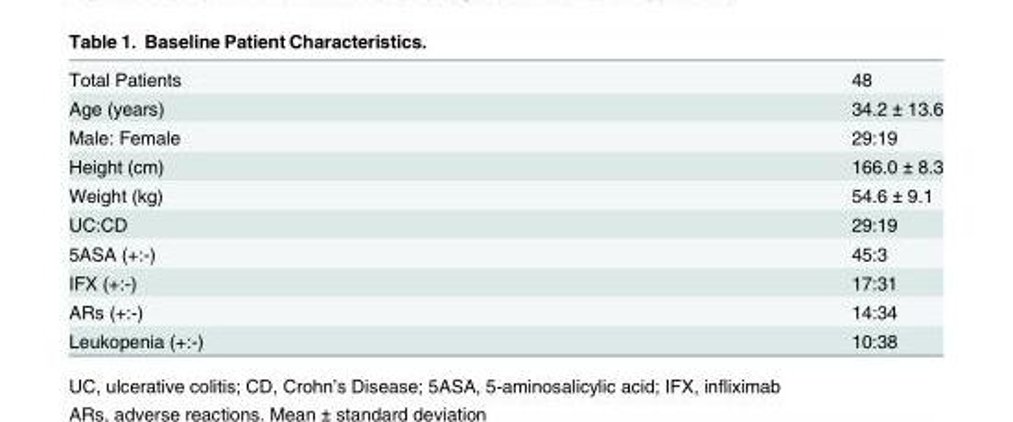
<table><tbody><tr><td>Total Patients</td><td>48</td></tr><tr><td>Age (years)</td><td>34.2 ± 13.6</td></tr><tr><td>Male: Female</td><td>29:19</td></tr><tr><td>Height (cm)</td><td>166.0 ± 8.3</td></tr><tr><td>Weight (kg)</td><td>54.6 ± 9.1</td></tr><tr><td>UC:CD</td><td>29:19</td></tr><tr><td>5ASA (+:-)</td><td>45:3</td></tr><tr><td>IFX (+:-)</td><td>17:31</td></tr><tr><td>ARs (+:-)</td><td>14:34</td></tr><tr><td>Leukopenia (+:-)</td><td>10:38</td></tr></tbody></table>